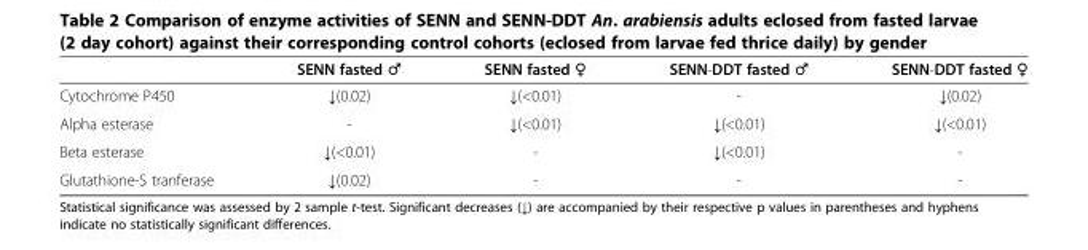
<table><thead><tr><td></td><td>SENN fasted ♂</td><td>SENN fasted ♀</td><td>SENN-DDT fasted ♂</td><td>SENN-DDT fasted ♀</td></tr></thead><tbody><tr><td>Cytochrome P450</td><td>↓(0.02)</td><td>↓(&lt;0.01)</td><td>-</td><td>↓(0.02)</td></tr><tr><td>Alpha esterase</td><td>-</td><td>↓(&lt;0.01)</td><td>↓(&lt;0.01)</td><td>↓(&lt;0.01)</td></tr><tr><td>Beta esterase</td><td>↓(&lt;0.01)</td><td>-</td><td>↓(&lt;0.01)</td><td>-</td></tr><tr><td>Glutathione-S tranferase</td><td>↓(0.02)</td><td>-</td><td>-</td><td>-</td></tr></tbody></table>